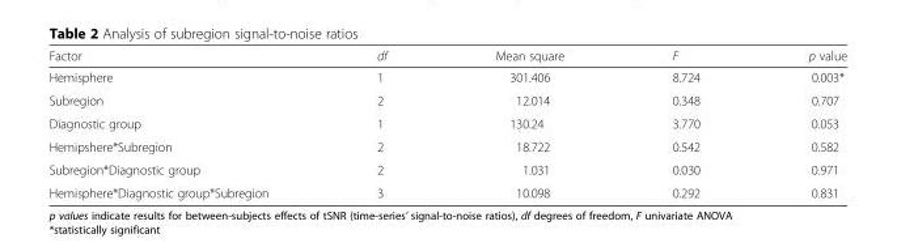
<table><thead><tr><td>Factor</td><td>df</td><td>Mean square</td><td>F</td><td>p value</td></tr></thead><tbody><tr><td>Hemisphere</td><td>1</td><td>301.406</td><td>8.724</td><td>0.003*</td></tr><tr><td>Subregion</td><td>2</td><td>12.014</td><td>0.348</td><td>0.707</td></tr><tr><td>Diagnostic group</td><td>1</td><td>130.24</td><td>3.770</td><td>0.053</td></tr><tr><td>Hemipshere*Subregion</td><td>2</td><td>18.722</td><td>0.542</td><td>0.582</td></tr><tr><td>Subregion*Diagnostic group</td><td>2</td><td>1.031</td><td>0.030</td><td>0.971</td></tr><tr><td>Hemisphere*Diagnostic group*Subregion</td><td>3</td><td>10.098</td><td>0.292</td><td>0.831</td></tr></tbody></table>